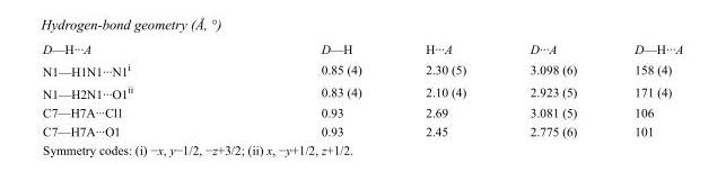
<table><tbody><tr><td>D—H···A</td><td>D—H</td><td>H···A</td><td>D···A</td><td>D—H···A</td></tr><tr><td>N1—H1N1···N1<sup>i</sup></td><td>0.85 (4)</td><td>2.30 (5)</td><td>3.098 (6)</td><td>158 (4)</td></tr><tr><td>N1—H2N1···O1<sup>ii</sup></td><td>0.83 (4)</td><td>2.10 (4)</td><td>2.923 (5)</td><td>171 (4)</td></tr><tr><td>C7—H7A···Cl1</td><td>0.93</td><td>2.69</td><td>3.081 (5)</td><td>106</td></tr><tr><td>C7—H7A···O1</td><td>0.93</td><td>2.45</td><td>2.775 (6)</td><td>101</td></tr></tbody></table>